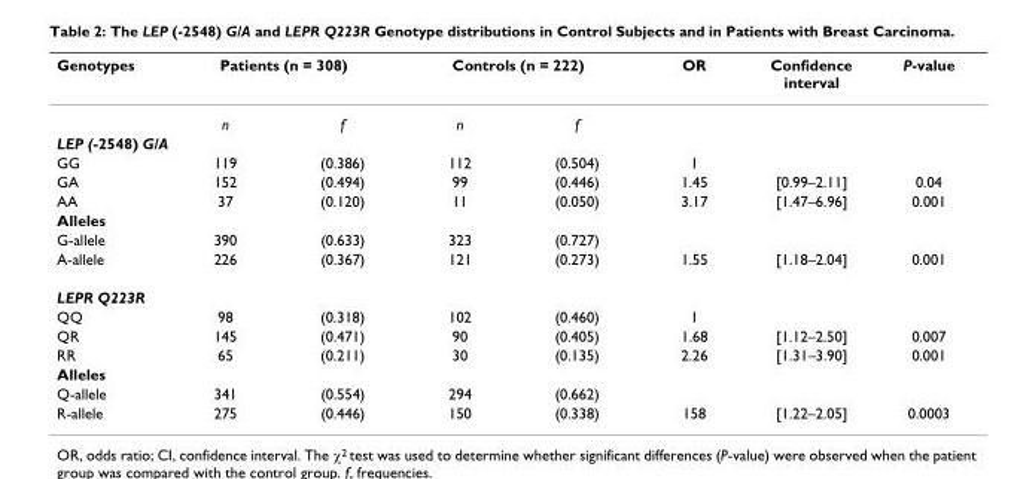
<table><thead><tr><td rowspan="2">Genotypes</td><td colspan="2">Patients (n = 308)</td><td colspan="2">Controls (n = 222)</td><td rowspan="2">OR</td><td rowspan="2">Confidence interval</td><td rowspan="2">P-value</td></tr><tr><td>n</td><td>f</td><td>n</td><td>f</td></tr></thead><tbody><tr><td colspan="8">LEP (-2548) G/A</td></tr><tr><td>GG</td><td>119</td><td>(0.386)</td><td>112</td><td>(0.504)</td><td>1</td><td></td><td></td></tr><tr><td>GA</td><td>152</td><td>(0.494)</td><td>99</td><td>(0.446)</td><td>1.45</td><td>[0.99–2.11]</td><td>0.04</td></tr><tr><td>AA</td><td>37</td><td>(0.120)</td><td>11</td><td>(0.050)</td><td>3.17</td><td>[1.47–6.96]</td><td>0.001</td></tr><tr><td colspan="8">Alleles</td></tr><tr><td>G-allele</td><td>390</td><td>(0.633)</td><td>323</td><td>(0.727)</td><td></td><td></td><td></td></tr><tr><td>A-allele</td><td>226</td><td>(0.367)</td><td>121</td><td>(0.273)</td><td>1.55</td><td>[1.18–2.04]</td><td>0.001</td></tr><tr><td colspan="8">LEPR Q223R</td></tr><tr><td>QQ</td><td>98</td><td>(0.318)</td><td>102</td><td>(0.460)</td><td>1</td><td></td><td></td></tr><tr><td>QR</td><td>145</td><td>(0.471)</td><td>90</td><td>(0.405)</td><td>1.68</td><td>[1.12–2.50]</td><td>0.007</td></tr><tr><td>RR</td><td>65</td><td>(0.211)</td><td>30</td><td>(0.135)</td><td>2.26</td><td>[1.31–3.90]</td><td>0.001</td></tr><tr><td colspan="8">Alleles</td></tr><tr><td>Q-allele</td><td>341</td><td>(0.554)</td><td>294</td><td>(0.662)</td><td></td><td></td><td></td></tr><tr><td>R-allele</td><td>275</td><td>(0.446)</td><td>150</td><td>(0.338)</td><td>158</td><td>[1.22–2.05]</td><td>0.0003</td></tr></tbody></table>